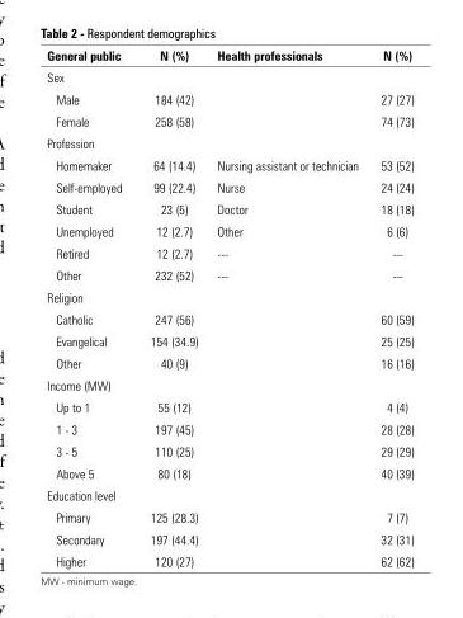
<table><thead><tr><td>General public</td><td>N (%)</td><td>Health professionals</td><td>N (%)</td></tr></thead><tbody><tr><td colspan="4">Sex</td></tr><tr><td>Male</td><td>184 (42)</td><td></td><td>27 (27)</td></tr><tr><td>Female</td><td>258 (58)</td><td></td><td>74 (73)</td></tr><tr><td colspan="4">Profession</td></tr><tr><td>Homemaker</td><td>64 (14.4)</td><td>Nursing assistant or technician</td><td>53 (52)</td></tr><tr><td>Self-employed</td><td>99 (22.4)</td><td>Nurse</td><td>24 (24)</td></tr><tr><td>Student</td><td>23 (5)</td><td>Doctor</td><td>18 (18)</td></tr><tr><td>Unemployed</td><td>12 (2.7)</td><td>Other</td><td>6 (6)</td></tr><tr><td>Retired</td><td>12 (2.7)</td><td>---</td><td>---</td></tr><tr><td>Other</td><td>232 (52)</td><td>---</td><td>---</td></tr><tr><td colspan="4">Religion</td></tr><tr><td>Catholic</td><td>247 (56)</td><td></td><td>60 (59)</td></tr><tr><td>Evangelical</td><td>154 (34.9)</td><td></td><td>25 (25)</td></tr><tr><td>Other</td><td>40 (9)</td><td></td><td>16 (16)</td></tr><tr><td colspan="4">Income (MW)</td></tr><tr><td>Up to 1</td><td>55 (12)</td><td></td><td>4 (4)</td></tr><tr><td>1 - 3</td><td>197 (45)</td><td></td><td>28 (28)</td></tr><tr><td>3 - 5</td><td>110 (25)</td><td></td><td>29 (29)</td></tr><tr><td>Above 5</td><td>80 (18)</td><td></td><td>40 (39)</td></tr><tr><td colspan="4">Education level</td></tr><tr><td>Primary</td><td>125 (28.3)</td><td></td><td>7 (7)</td></tr><tr><td>Secondary</td><td>197 (44.4)</td><td></td><td>32 (31)</td></tr><tr><td>Higher</td><td>120 (27)</td><td></td><td>62 (62)</td></tr></tbody></table>